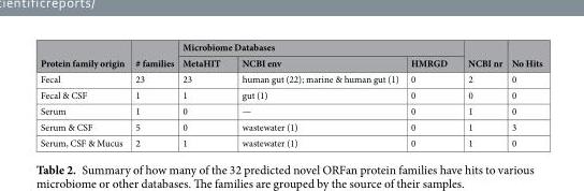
<table><thead><tr><td rowspan="2">Protein family origin</td><td rowspan="2"># families</td><td colspan="3">Microbiome Databases</td><td rowspan="2">NCBI nr</td><td rowspan="2">No Hits</td></tr><tr><td>MetaHIT</td><td>NCBI env</td><td>HMRGD</td></tr></thead><tbody><tr><td>Fecal</td><td>23</td><td>23</td><td>human gut (22); marine &amp; human gut (1)</td><td>0</td><td>2</td><td>0</td></tr><tr><td>Fecal &amp; CSF</td><td>1</td><td>1</td><td>gut (1)</td><td>0</td><td>0</td><td>0</td></tr><tr><td>Serum</td><td>1</td><td>0</td><td>—</td><td>0</td><td>1</td><td>0</td></tr><tr><td>Serum &amp; CSF</td><td>5</td><td>0</td><td>wastewater (1)</td><td>0</td><td>1</td><td>3</td></tr><tr><td>Serum, CSF &amp; Mucus</td><td>2</td><td>1</td><td>wastewater (1)</td><td>0</td><td>1</td><td>0</td></tr></tbody></table>